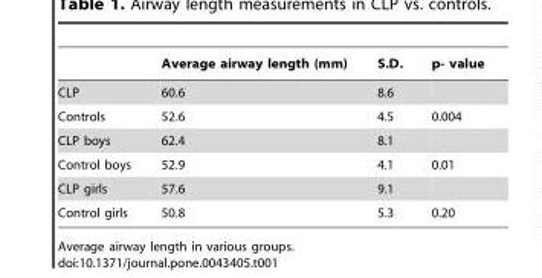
<table><thead><tr><td></td><td>Average airway length (mm)</td><td>S.D.</td><td>p- value</td></tr></thead><tbody><tr><td>CLP</td><td>60.6</td><td>8.6</td><td></td></tr><tr><td>Controls</td><td>52.6</td><td>4.5</td><td>0.004</td></tr><tr><td>CLP boys</td><td>62.4</td><td>8.1</td><td></td></tr><tr><td>Control boys</td><td>52.9</td><td>4.1</td><td>0.01</td></tr><tr><td>CLP girls</td><td>57.6</td><td>9.1</td><td></td></tr><tr><td>Control girls</td><td>50.8</td><td>5.3</td><td>0.20</td></tr></tbody></table>